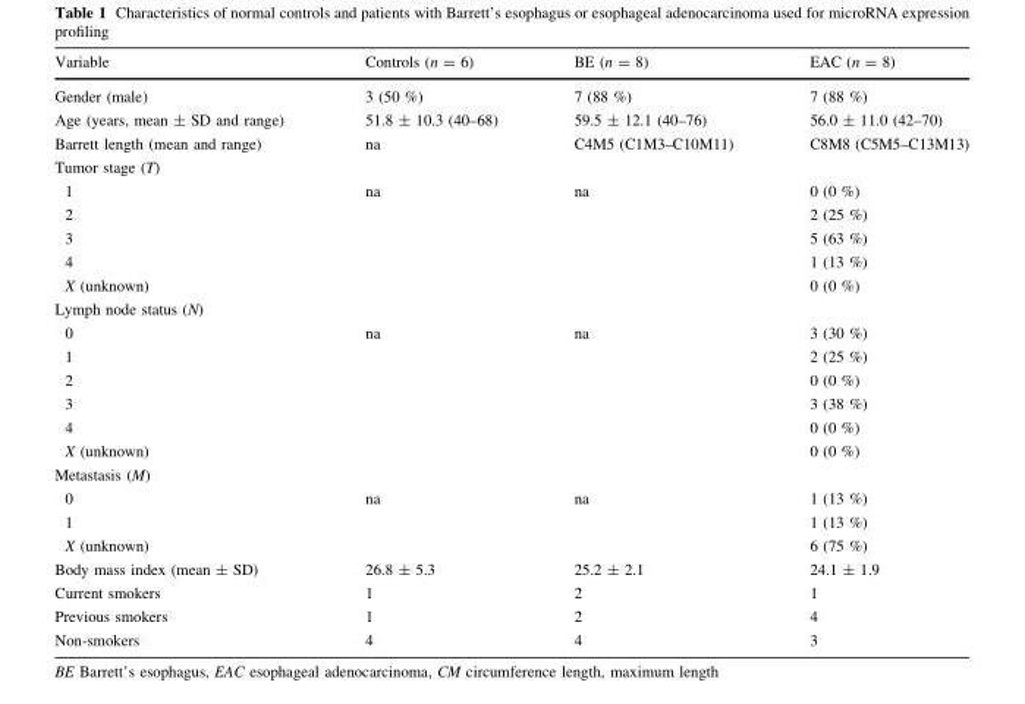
<table><thead><tr><td>Variable</td><td>Controls (n = 6)</td><td>BE (n = 8)</td><td>EAC (n = 8)</td></tr></thead><tbody><tr><td>Gender (male)</td><td>3 (50 %)</td><td>7 (88 %)</td><td>7 (88 %)</td></tr><tr><td>Age (years, mean ± SD and range)</td><td>51.8 ± 10.3 (40–68)</td><td>59.5 ± 12.1 (40–76)</td><td>56.0 ± 11.0 (42–70)</td></tr><tr><td>Barrett length (mean and range)</td><td>na</td><td>C4M5 (C1M3–C10M11)</td><td>C8M8 (C5M5–C13M13)</td></tr><tr><td colspan="4">Tumor stage (T)</td></tr><tr><td>1</td><td>na</td><td>na</td><td>0 (0 %)</td></tr><tr><td>2</td><td></td><td></td><td>2 (25 %)</td></tr><tr><td>3</td><td></td><td></td><td>5 (63 %)</td></tr><tr><td>4</td><td></td><td></td><td>1 (13 %)</td></tr><tr><td>X (unknown)</td><td></td><td></td><td>0 (0 %)</td></tr><tr><td colspan="4">Lymph node status (N)</td></tr><tr><td>0</td><td>na</td><td>na</td><td>3 (30 %)</td></tr><tr><td>1</td><td></td><td></td><td>2 (25 %)</td></tr><tr><td>2</td><td></td><td></td><td>0 (0 %)</td></tr><tr><td>3</td><td></td><td></td><td>3 (38 %)</td></tr><tr><td>4</td><td></td><td></td><td>0 (0 %)</td></tr><tr><td>X (unknown)</td><td></td><td></td><td>0 (0 %)</td></tr><tr><td colspan="4">Metastasis (M)</td></tr><tr><td>0</td><td>na</td><td>na</td><td>1 (13 %)</td></tr><tr><td>1</td><td></td><td></td><td>1 (13 %)</td></tr><tr><td>X (unknown)</td><td></td><td></td><td>6 (75 %)</td></tr><tr><td>Body mass index (mean ± SD)</td><td>26.8 ± 5.3</td><td>25.2 ± 2.1</td><td>24.1 ± 1.9</td></tr><tr><td>Current smokers</td><td>1</td><td>2</td><td>1</td></tr><tr><td>Previous smokers</td><td>1</td><td>2</td><td>4</td></tr><tr><td>Non-smokers</td><td>4</td><td>4</td><td>3</td></tr></tbody></table>